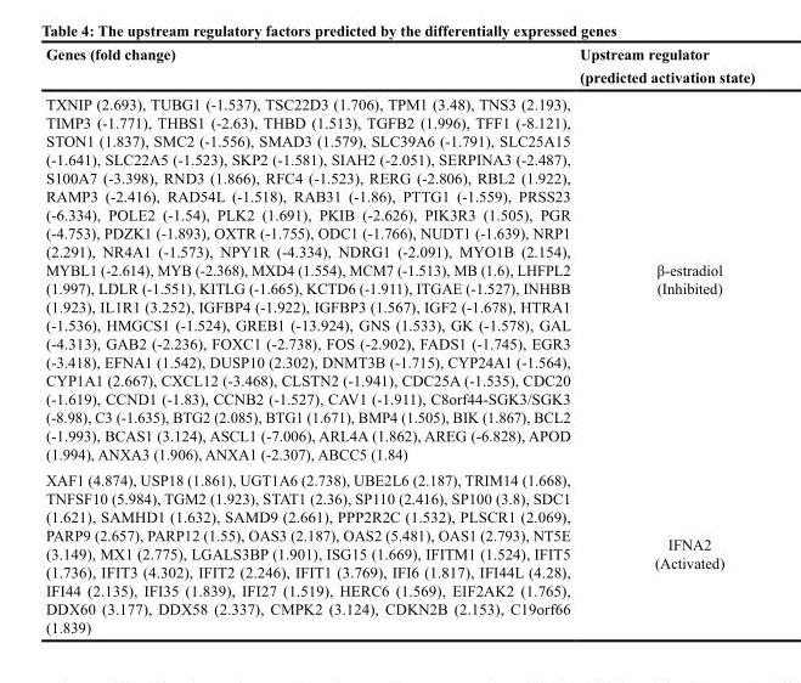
<table><thead><tr><td>Genes (fold change)</td><td>Upstream regulator (predicted activation state)</td></tr></thead><tbody><tr><td>TXNIP (2.693), TUBG1 (-1.537), TSC22D3 (1.706), TPM1 (3.48), TNS3 (2.193), TIMP3 (-1.771), THBS1 (-2.63), THBD (1.513), TGFB2 (1.996), TFF1 (-8.121), STON1 (1.837), SMC2 (-1.556), SMAD3 (1.579), SLC39A6 (-1.791), SLC25A15 (-1.641), SLC22A5 (-1.523), SKP2 (-1.581), SIAH2 (-2.051), SERPINA3 (-2.487), S100A7 (-3.398), RND3 (1.866), RFC4 (-1.523), RERG (-2.806), RBL2 (1.922), RAMP3 (-2.416), RAD54L (-1.518), RAB31 (-1.86), PTTG1 (-1.559), PRSS23 (-6.334), POLE2 (-1.54), PLK2 (1.691), PKIB (-2.626), PIK3R3 (1.505), PGR (-4.753), PDZK1 (-1.893), OXTR (-1.755), ODC1 (-1.766), NUDT1 (-1.639), NRP1 (2.291), NR4A1 (-1.573), NPY1R (-4.334), NDRG1 (-2.091), MYO1B (2.154), MYBL1 (-2.614), MYB (-2.368), MXD4 (1.554), MCM7 (-1.513), MB (1.6), LHFPL2 (1.997), LDLR (-1.551), KITLG (-1.665), KCTD6 (-1.911), ITGAE (-1.527), INHBB (1.923), IL1R1 (3.252), IGFBP4 (-1.922), IGFBP3 (1.567), IGF2 (-1.678), HTRA1 (-1.536), HMGCS1 (-1.524), GREB1 (-13.924), GNS (1.533), GK (-1.578), GAL (-4.313), GAB2 (-2.236), FOXC1 (-2.738), FOS (-2.902), FADS1 (-1.745), EGR3 (-3.418), EFNA1 (1.542), DUSP10 (2.302), DNMT3B (-1.715), CYP24A1 (-1.564), CYP1A1 (2.667), CXCL12 (-3.468), CLSTN2 (-1.941), CDC25A (-1.535), CDC20 (-1.619), CCND1 (-1.83), CCNB2 (-1.527), CAV1 (-1.911), C8orf44-SGK3/SGK3 (-8.98), C3 (-1.635), BTG2 (2.085), BTG1 (1.671), BMP4 (1.505), BIK (1.867), BCL2 (-1.993), BCAS1 (3.124), ASCL1 (-7.006), ARL4A (1.862), AREG (-6.828), APOD (1.994), ANXA3 (1.906), ANXA1 (-2.307), ABCC5 (1.84)</td><td>β-estradiol (Inhibited)</td></tr><tr><td>XAF1 (4.874), USP18 (1.861), UGT1A6 (2.738), UBE2L6 (2.187), TRIM14 (1.668), TNFSF10 (5.984), TGM2 (1.923), STAT1 (2.36), SP110 (2.416), SP100 (3.8), SDC1 (1.621), SAMHD1 (1.632), SAMD9 (2.661), PPP2R2C (1.532), PLSCR1 (2.069), PARP9 (2.657), PARP12 (1.55), OAS3 (2.187), OAS2 (5.481), OAS1 (2.793), NT5E (3.149), MX1 (2.775), LGALS3BP (1.901), ISG15 (1.669), IFITM1 (1.524), IFIT5 (1.736), IFIT3 (4.302), IFIT2 (2.246), IFIT1 (3.769), IFI6 (1.817), IFI44L (4.28), IFI44 (2.135), IFI35 (1.839), IFI27 (1.519), HERC6 (1.569), EIF2AK2 (1.765), DDX60 (3.177), DDX58 (2.337), CMPK2 (3.124), CDKN2B (2.153), C19orf66 (1.839)</td><td>IFNA2 (Activated)</td></tr></tbody></table>